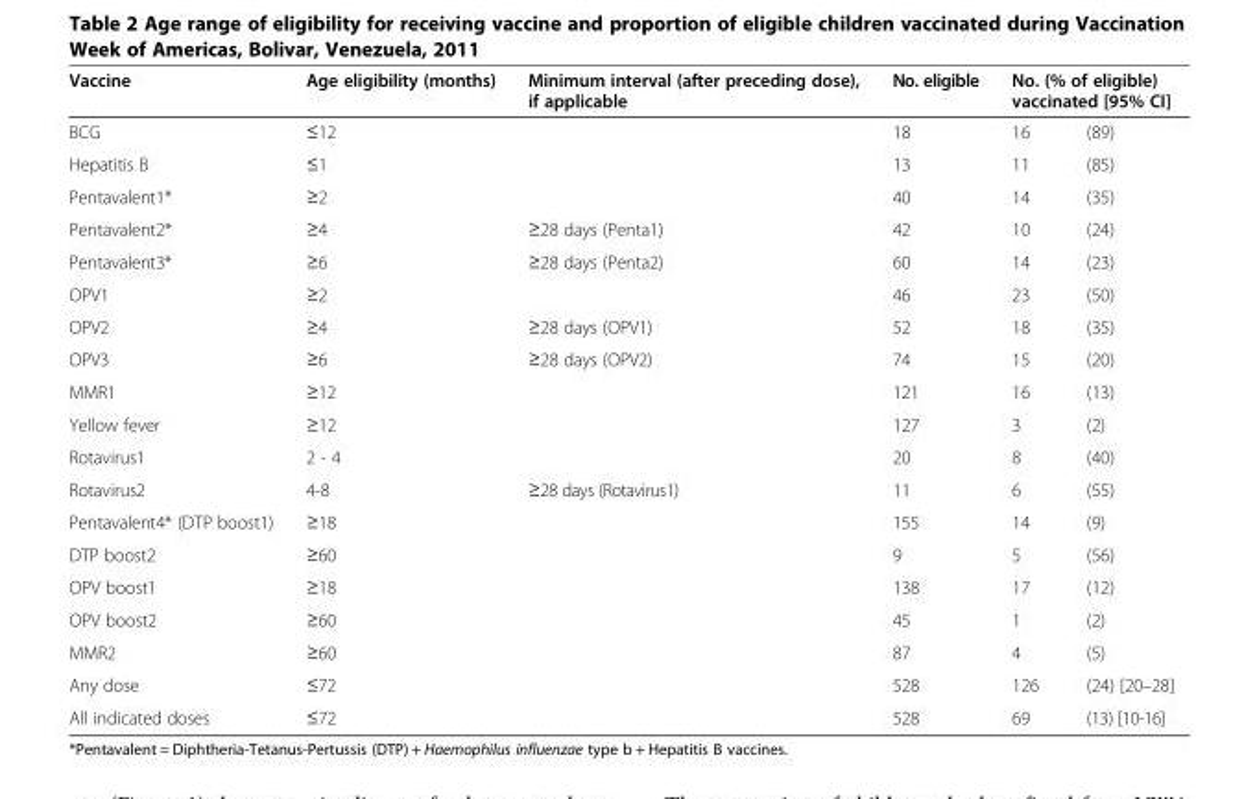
<table><thead><tr><td rowspan="2">Vaccine BCG</td><td rowspan="2">Age eligibility (months) ≤12</td><td rowspan="2">Minimum interval (after preceding dose), if applicable</td><td rowspan="2">No. eligible 18</td><td colspan="2">No. (% of eligible) vaccinated [95% CI]</td></tr><tr><td>16</td><td>(89)</td></tr></thead><tbody><tr><td>Hepatitis B</td><td>≤1</td><td></td><td>13</td><td>11</td><td>(85)</td></tr><tr><td>Pentavalent1*</td><td>≥2</td><td></td><td>40</td><td>14</td><td>(35)</td></tr><tr><td>Pentavalent2*</td><td>≥4</td><td>≥28 days (Penta1)</td><td>42</td><td>10</td><td>(24)</td></tr><tr><td>Pentavalent3*</td><td>≥6</td><td>≥28 days (Penta2)</td><td>60</td><td>14</td><td>(23)</td></tr><tr><td>OPV1</td><td>≥2</td><td></td><td>46</td><td>23</td><td>(50)</td></tr><tr><td>OPV2</td><td>≥4</td><td>≥28 days (OPV1)</td><td>52</td><td>18</td><td>(35)</td></tr><tr><td>OPV3</td><td>≥6</td><td>≥28 days (OPV2)</td><td>74</td><td>15</td><td>(20)</td></tr><tr><td>MMR1</td><td>≥12</td><td></td><td>121</td><td>16</td><td>(13)</td></tr><tr><td>Yellow fever</td><td>≥12</td><td></td><td>127</td><td>3</td><td>(2)</td></tr><tr><td>Rotavirus1</td><td>2 - 4</td><td></td><td>20</td><td>8</td><td>(40)</td></tr><tr><td>Rotavirus2</td><td>4-8</td><td>≥28 days (Rotavirus1)</td><td>11</td><td>6</td><td>(55)</td></tr><tr><td>Pentavalent4* (DTP boost1)</td><td>≥18</td><td></td><td>155</td><td>14</td><td>(9)</td></tr><tr><td>DTP boost2</td><td>≥60</td><td></td><td>9</td><td>5</td><td>(56)</td></tr><tr><td>OPV boost1</td><td>≥18</td><td></td><td>138</td><td>17</td><td>(12)</td></tr><tr><td>OPV boost2</td><td>≥60</td><td></td><td>45</td><td>1</td><td>(2)</td></tr><tr><td>MMR2</td><td>≥60</td><td></td><td>87</td><td>4</td><td>(5)</td></tr><tr><td>Any dose</td><td>≤72</td><td></td><td>528</td><td>126</td><td>(24) [20–28]</td></tr><tr><td>All indicated doses</td><td>≤72</td><td></td><td>528</td><td>69</td><td>(13) [10-16]</td></tr></tbody></table>